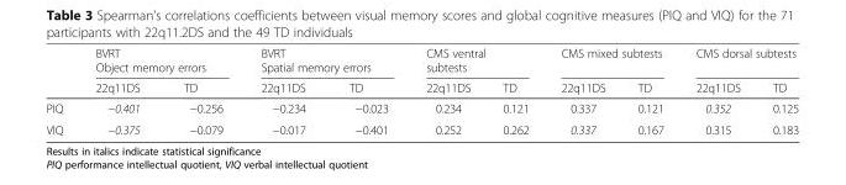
<table><thead><tr><td rowspan="3"></td><td rowspan="2" colspan="2">BVRT Object memory errors</td><td rowspan="2" colspan="2">BVRT Spatial memory errors</td><td rowspan="2" colspan="2">CMS ventral subtests</td><td rowspan="2" colspan="2">CMS mixed subtests</td><td rowspan="2" colspan="2">CMS dorsal subtests</td></tr><tr></tr><tr><td>22q11DS</td><td>TD</td><td>22q11DS</td><td>TD</td><td>22q11DS</td><td>TD</td><td>22q11DS</td><td>TD</td><td>22q11DS</td><td>TD</td></tr></thead><tbody><tr><td>PIQ</td><td>−0.401</td><td>−0.256</td><td>−0.234</td><td>−0.023</td><td>0.234</td><td>0.121</td><td>0.337</td><td>0.121</td><td>0.352</td><td>0.125</td></tr><tr><td>VIQ</td><td>−0.375</td><td>−0.079</td><td>−0.017</td><td>−0.401</td><td>0.252</td><td>0.262</td><td>0.337</td><td>0.167</td><td>0.315</td><td>0.183</td></tr></tbody></table>